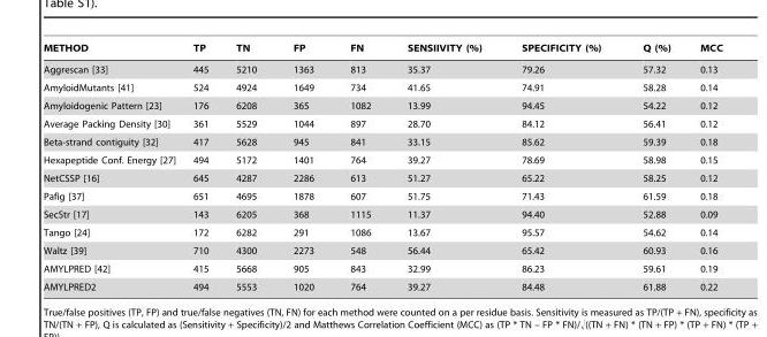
<table><thead><tr><td>METHOD</td><td>TP</td><td>TN</td><td>FP</td><td>FN</td><td>SENSIIVITY (%)</td><td>SPECIFICITY (%)</td><td>Q (%)</td><td>MCC</td></tr></thead><tbody><tr><td>Aggrescan [33]</td><td>445</td><td>5210</td><td>1363</td><td>813</td><td>35.37</td><td>79.26</td><td>57.32</td><td>0.13</td></tr><tr><td>AmyloidMutants [41]</td><td>524</td><td>4924</td><td>1649</td><td>734</td><td>41.65</td><td>74.91</td><td>58.28</td><td>0.14</td></tr><tr><td>Amyloidogenic Pattern [23]</td><td>176</td><td>6208</td><td>365</td><td>1082</td><td>13.99</td><td>94.45</td><td>54.22</td><td>0.12</td></tr><tr><td>Average Packing Density [30]</td><td>361</td><td>5529</td><td>1044</td><td>897</td><td>28.70</td><td>84.12</td><td>56.41</td><td>0.12</td></tr><tr><td>Beta-strand contiguity [32]</td><td>417</td><td>5628</td><td>945</td><td>841</td><td>33.15</td><td>85.62</td><td>59.39</td><td>0.18</td></tr><tr><td>Hexapeptide Conf. Energy [27]</td><td>494</td><td>5172</td><td>1401</td><td>764</td><td>39.27</td><td>78.69</td><td>58.98</td><td>0.15</td></tr><tr><td>NetCSSP [16]</td><td>645</td><td>4287</td><td>2286</td><td>613</td><td>51.27</td><td>65.22</td><td>58.25</td><td>0.12</td></tr><tr><td>Pafig [37]</td><td>651</td><td>4695</td><td>1878</td><td>607</td><td>51.75</td><td>71.43</td><td>61.59</td><td>0.18</td></tr><tr><td>SecStr [17]</td><td>143</td><td>6205</td><td>368</td><td>1115</td><td>11.37</td><td>94.40</td><td>52.88</td><td>0.09</td></tr><tr><td>Tango [24]</td><td>172</td><td>6282</td><td>291</td><td>1086</td><td>13.67</td><td>95.57</td><td>54.62</td><td>0.14</td></tr><tr><td>Waltz [39]</td><td>710</td><td>4300</td><td>2273</td><td>548</td><td>56.44</td><td>65.42</td><td>60.93</td><td>0.16</td></tr><tr><td>AMYLPRED [42]</td><td>415</td><td>5668</td><td>905</td><td>843</td><td>32.99</td><td>86.23</td><td>59.61</td><td>0.19</td></tr><tr><td>AMYLPRED2</td><td>494</td><td>5553</td><td>1020</td><td>764</td><td>39.27</td><td>84.48</td><td>61.88</td><td>0.22</td></tr></tbody></table>